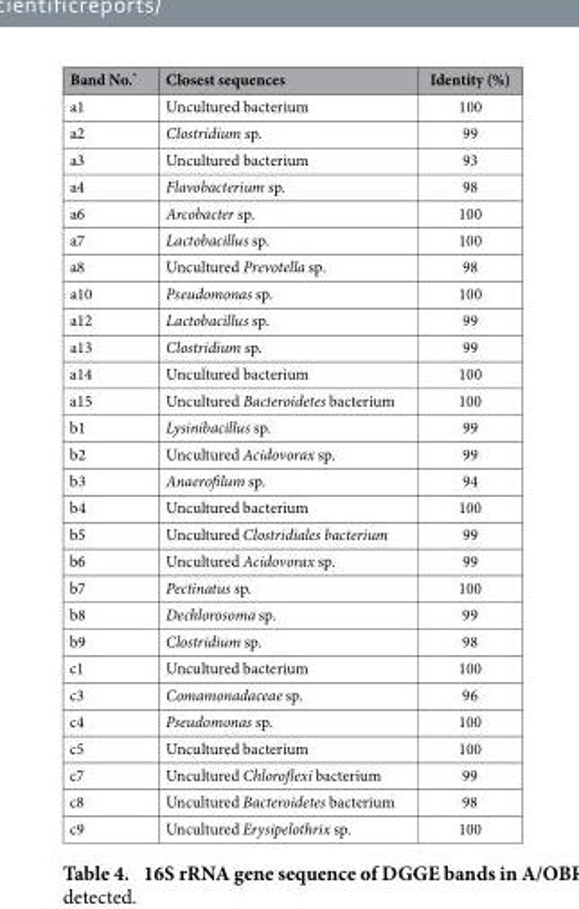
<table><thead><tr><td>Band No.*</td><td>Closest sequences</td><td>Identity (%)</td></tr></thead><tbody><tr><td>a1</td><td>Uncultured bacterium</td><td>100</td></tr><tr><td>a2</td><td>Clostridium sp.</td><td>99</td></tr><tr><td>a3</td><td>Uncultured bacterium</td><td>93</td></tr><tr><td>a4</td><td>Flavobacterium sp.</td><td>98</td></tr><tr><td>a6</td><td>Arcobacter sp.</td><td>100</td></tr><tr><td>a7</td><td>Lactobacillus sp.</td><td>100</td></tr><tr><td>a8</td><td>Uncultured Prevotella sp.</td><td>98</td></tr><tr><td>a10</td><td>Pseudomonas sp.</td><td>100</td></tr><tr><td>a12</td><td>Lactobacillus sp.</td><td>99</td></tr><tr><td>a13</td><td>Clostridium sp.</td><td>99</td></tr><tr><td>a14</td><td>Uncultured bacterium</td><td>100</td></tr><tr><td>a15</td><td>Uncultured Bacteroidetes bacterium</td><td>100</td></tr><tr><td>b1</td><td>Lysinibacillus sp.</td><td>99</td></tr><tr><td>b2</td><td>Uncultured Acidovorax sp.</td><td>99</td></tr><tr><td>b3</td><td>Anaerofilum sp.</td><td>94</td></tr><tr><td>b4</td><td>Uncultured bacterium</td><td>100</td></tr><tr><td>b5</td><td>Uncultured Clostridiales bacterium</td><td>99</td></tr><tr><td>b6</td><td>Uncultured Acidovorax sp.</td><td>99</td></tr><tr><td>b7</td><td>Pectinatus sp.</td><td>100</td></tr><tr><td>b8</td><td>Dechlorosoma sp.</td><td>99</td></tr><tr><td>b9</td><td>Clostridium sp.</td><td>98</td></tr><tr><td>c1</td><td>Uncultured bacterium</td><td>100</td></tr><tr><td>c3</td><td>Comamonadaceae sp.</td><td>96</td></tr><tr><td>c4</td><td>Pseudomonas sp.</td><td>100</td></tr><tr><td>c5</td><td>Uncultured bacterium</td><td>100</td></tr><tr><td>c7</td><td>Uncultured Chloroflexi bacterium</td><td>99</td></tr><tr><td>c8</td><td>Uncultured Bacteroidetes bacterium</td><td>98</td></tr><tr><td>c9</td><td>Uncultured Erysipelothrix sp.</td><td>100</td></tr></tbody></table>